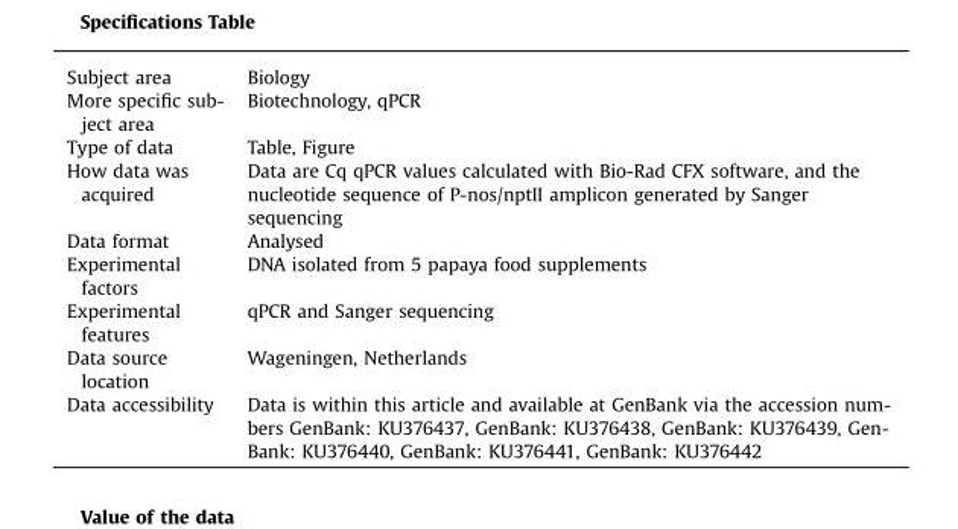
<table><tbody><tr><td>Subject area</td><td>Biology</td></tr><tr><td>More specific sub- ject area</td><td>Biotechnology, qPCR</td></tr><tr><td>Type of data</td><td>Table, Figure</td></tr><tr><td>How data was acquired</td><td>Data are Cq qPCR values calculated with Bio-Rad CFX software, and the nucleotide sequence of P-nos/nptII amplicon generated by Sanger sequencing</td></tr><tr><td>Data format</td><td>Analysed</td></tr><tr><td>Experimental factors</td><td>DNA isolated from 5 papaya food supplements</td></tr><tr><td>Experimental features</td><td>qPCR and Sanger sequencing</td></tr><tr><td>Data source location</td><td>Wageningen, Netherlands</td></tr><tr><td>Data accessibility</td><td>Data is within this article and available at GenBank via the accession num- bers GenBank: KU376437, GenBank: KU376438, GenBank: KU376439, Gen- Bank: KU376440, GenBank: KU376441, GenBank: KU376442</td></tr></tbody></table>